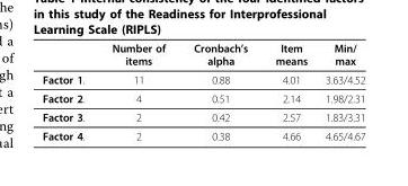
<table><thead><tr><td></td><td>Number of items</td><td>Cronbach’s alpha</td><td>Item means</td><td>Min/ max</td></tr></thead><tbody><tr><td>Factor 1.</td><td>11</td><td>0.88</td><td>4.01</td><td>3.63/4.52</td></tr><tr><td>Factor 2.</td><td>4</td><td>0.51</td><td>2.14</td><td>1.98/2.31</td></tr><tr><td>Factor 3.</td><td>2</td><td>0.42</td><td>2.57</td><td>1.83/3.31</td></tr><tr><td>Factor 4.</td><td>2</td><td>0.38</td><td>4.66</td><td>4.65/4.67</td></tr></tbody></table>